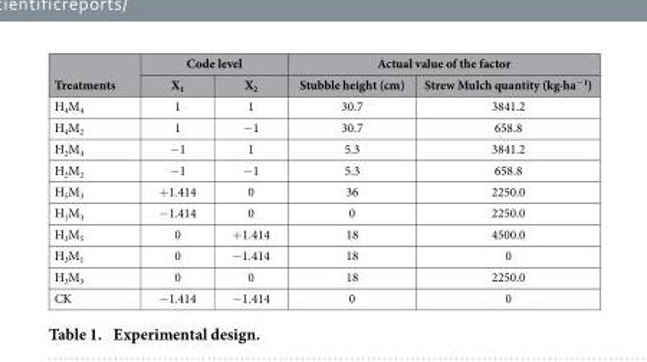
<table><thead><tr><td rowspan="2">Treatments</td><td colspan="2">Code level</td><td colspan="2">Actual value of the factor</td></tr><tr><td>X<sub>1</sub></td><td>X<sub>2</sub></td><td>Stubble height (cm)</td><td>Strew Mulch quantity (kg·ha<sup>−1</sup>)</td></tr></thead><tbody><tr><td>H<sub>4</sub>M<sub>4</sub></td><td>1</td><td>1</td><td>30.7</td><td>3841.2</td></tr><tr><td>H<sub>4</sub>M<sub>2</sub></td><td>1</td><td>− 1</td><td>30.7</td><td>658.8</td></tr><tr><td>H<sub>2</sub>M<sub>4</sub></td><td>− 1</td><td>1</td><td>5.3</td><td>3841.2</td></tr><tr><td>H<sub>2</sub>M<sub>2</sub></td><td>− 1</td><td>− 1</td><td>5.3</td><td>658.8</td></tr><tr><td>H<sub>5</sub>M<sub>3</sub></td><td>+ 1.414</td><td>0</td><td>36</td><td>2250.0</td></tr><tr><td>H<sub>1</sub>M<sub>3</sub></td><td>− 1.414</td><td>0</td><td>0</td><td>2250.0</td></tr><tr><td>H<sub>3</sub>M<sub>5</sub></td><td>0</td><td>+ 1.414</td><td>18</td><td>4500.0</td></tr><tr><td>H<sub>3</sub>M<sub>1</sub></td><td>0</td><td>− 1.414</td><td>18</td><td>0</td></tr><tr><td>H<sub>3</sub>M<sub>3</sub></td><td>0</td><td>0</td><td>18</td><td>2250.0</td></tr><tr><td>CK</td><td>− 1.414</td><td>− 1.414</td><td>0</td><td>0</td></tr></tbody></table>